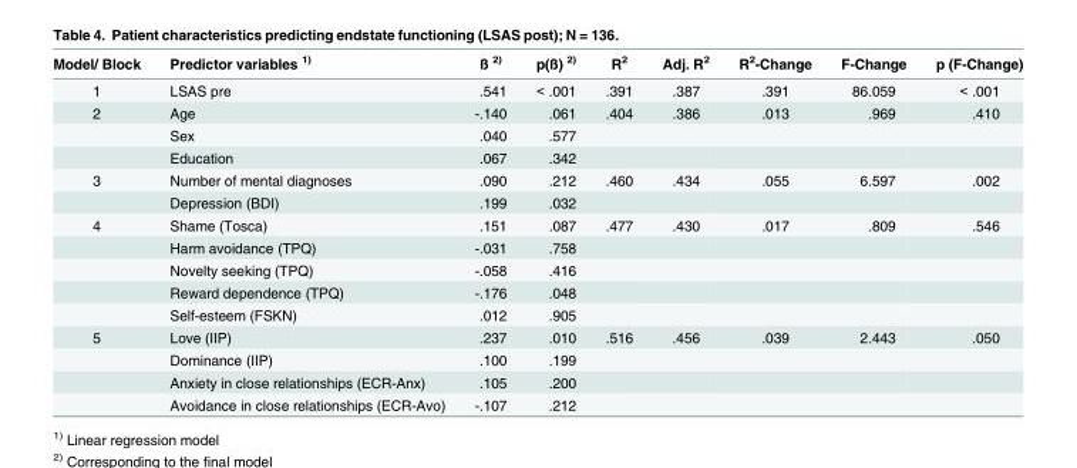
<table><thead><tr><td>Model/ Block</td><td>Predictor variables <sup>1)</sup></td><td>ß <sup>2)</sup></td><td>p(ß) <sup>2)</sup></td><td>R<sup>2</sup></td><td>Adj. R<sup>2</sup></td><td>R<sup>2</sup>-Change</td><td>F-Change</td><td>p (F-Change)</td></tr></thead><tbody><tr><td>1</td><td>LSAS pre</td><td>.541</td><td>&lt; .001</td><td>.391</td><td>.387</td><td>.391</td><td>86.059</td><td>&lt; .001</td></tr><tr><td rowspan="3">2</td><td>Age</td><td>-.140</td><td>.061</td><td>.404</td><td>.386</td><td>.013</td><td>.969</td><td>.410</td></tr><tr><td>Sex</td><td>.040</td><td>.577</td><td></td><td></td><td></td><td></td><td></td></tr><tr><td>Education</td><td>.067</td><td>.342</td><td></td><td></td><td></td><td></td><td></td></tr><tr><td rowspan="2">3</td><td>Number of mental diagnoses</td><td>.090</td><td>.212</td><td>.460</td><td>.434</td><td>.055</td><td>6.597</td><td>.002</td></tr><tr><td>Depression (BDI)</td><td>.199</td><td>.032</td><td></td><td></td><td></td><td></td><td></td></tr><tr><td rowspan="5">4</td><td>Shame (Tosca)</td><td>.151</td><td>.087</td><td>.477</td><td>.430</td><td>.017</td><td>.809</td><td>.546</td></tr><tr><td>Harm avoidance (TPQ)</td><td>-.031</td><td>.758</td><td></td><td></td><td></td><td></td><td></td></tr><tr><td>Novelty seeking (TPQ)</td><td>-.058</td><td>.416</td><td></td><td></td><td></td><td></td><td></td></tr><tr><td>Reward dependence (TPQ)</td><td>-.176</td><td>.048</td><td></td><td></td><td></td><td></td><td></td></tr><tr><td>Self-esteem (FSKN)</td><td>.012</td><td>.905</td><td></td><td></td><td></td><td></td><td></td></tr><tr><td rowspan="4">5</td><td>Love (IIP)</td><td>.237</td><td>.010</td><td>.516</td><td>.456</td><td>.039</td><td>2.443</td><td>.050</td></tr><tr><td>Dominance (IIP)</td><td>.100</td><td>.199</td><td></td><td></td><td></td><td></td><td></td></tr><tr><td>Anxiety in close relationships (ECR-Anx)</td><td>.105</td><td>.200</td><td></td><td></td><td></td><td></td><td></td></tr><tr><td>Avoidance in close relationships (ECR-Avo)</td><td>-.107</td><td>.212</td><td></td><td></td><td></td><td></td><td></td></tr></tbody></table>